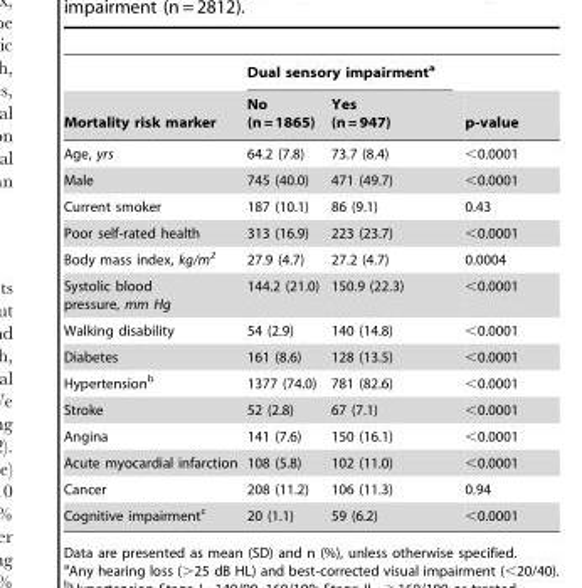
<table><thead><tr><td rowspan="2">Mortality risk marker</td><td colspan="2">Dual sensory impairment<sup>a</sup></td><td rowspan="2">p-value</td></tr><tr><td>No (n = 1865)</td><td>Yes (n = 947)</td></tr></thead><tbody><tr><td>Age, yrs</td><td>64.2 (7.8)</td><td>73.7 (8.4)</td><td>&lt;0.0001</td></tr><tr><td>Male</td><td>745 (40.0)</td><td>471 (49.7)</td><td>&lt;0.0001</td></tr><tr><td>Current smoker</td><td>187 (10.1)</td><td>86 (9.1)</td><td>0.43</td></tr><tr><td>Poor self-rated health</td><td>313 (16.9)</td><td>223 (23.7)</td><td>&lt;0.0001</td></tr><tr><td>Body mass index, kg/m<sup>2</sup></td><td>27.9 (4.7)</td><td>27.2 (4.7)</td><td>0.0004</td></tr><tr><td>Systolic blood pressure, mm Hg</td><td>144.2 (21.0)</td><td>150.9 (22.3)</td><td>&lt;0.0001</td></tr><tr><td>Walking disability</td><td>54 (2.9)</td><td>140 (14.8)</td><td>&lt;0.0001</td></tr><tr><td>Diabetes</td><td>161 (8.6)</td><td>128 (13.5)</td><td>&lt;0.0001</td></tr><tr><td>Hypertension<sup>b</sup></td><td>1377 (74.0)</td><td>781 (82.6)</td><td>&lt;0.0001</td></tr><tr><td>Stroke</td><td>52 (2.8)</td><td>67 (7.1)</td><td>&lt;0.0001</td></tr><tr><td>Angina</td><td>141 (7.6)</td><td>150 (16.1)</td><td>&lt;0.0001</td></tr><tr><td>Acute myocardial infarction</td><td>108 (5.8)</td><td>102 (11.0)</td><td>&lt;0.0001</td></tr><tr><td>Cancer</td><td>208 (11.2)</td><td>106 (11.3)</td><td>0.94</td></tr><tr><td>Cognitive impairment<sup>c</sup></td><td>20 (1.1)</td><td>59 (6.2)</td><td>&lt;0.0001</td></tr></tbody></table>